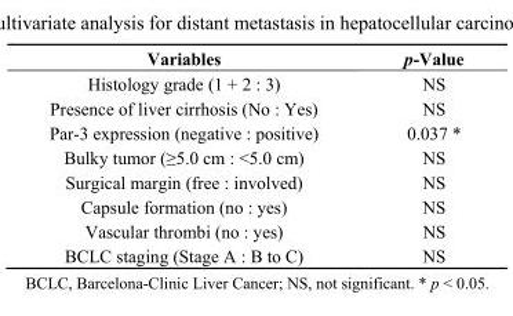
<table><thead><tr><td>Variables</td><td>p-Value</td></tr></thead><tbody><tr><td>Histology grade (1 + 2 : 3)</td><td>NS</td></tr><tr><td>Presence of liver cirrhosis (No : Yes)</td><td>NS</td></tr><tr><td>Par-3 expression (negative : positive)</td><td>0.037 *</td></tr><tr><td>Bulky tumor (≥5.0 cm : &lt;5.0 cm)</td><td>NS</td></tr><tr><td>Surgical margin (free : involved)</td><td>NS</td></tr><tr><td>Capsule formation (no : yes)</td><td>NS</td></tr><tr><td>Vascular thrombi (no : yes)</td><td>NS</td></tr><tr><td>BCLC staging (Stage A : B to C)</td><td>NS</td></tr></tbody></table>